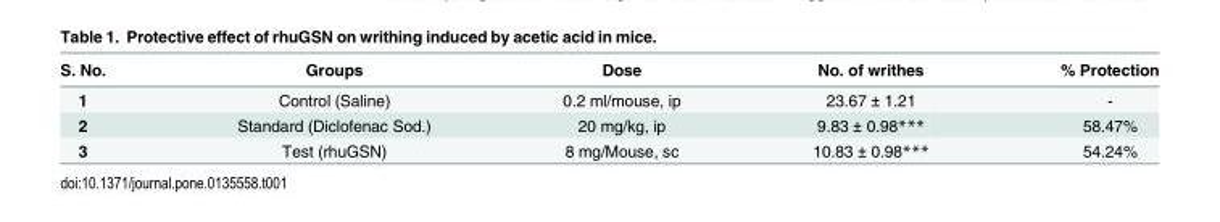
<table><thead><tr><td>S. No.</td><td>Groups</td><td>Dose</td><td>No. of writhes</td><td>% Protection</td></tr></thead><tbody><tr><td>1</td><td>Control (Saline)</td><td>0.2 ml/mouse, ip</td><td>23.67 ± 1.21</td><td>-</td></tr><tr><td>2</td><td>Standard (Diclofenac Sod.)</td><td>20 mg/kg, ip</td><td>9.83 ± 0.98***</td><td>58.47%</td></tr><tr><td>3</td><td>Test (rhuGSN)</td><td>8 mg/Mouse, sc</td><td>10.83 ± 0.98***</td><td>54.24%</td></tr></tbody></table>